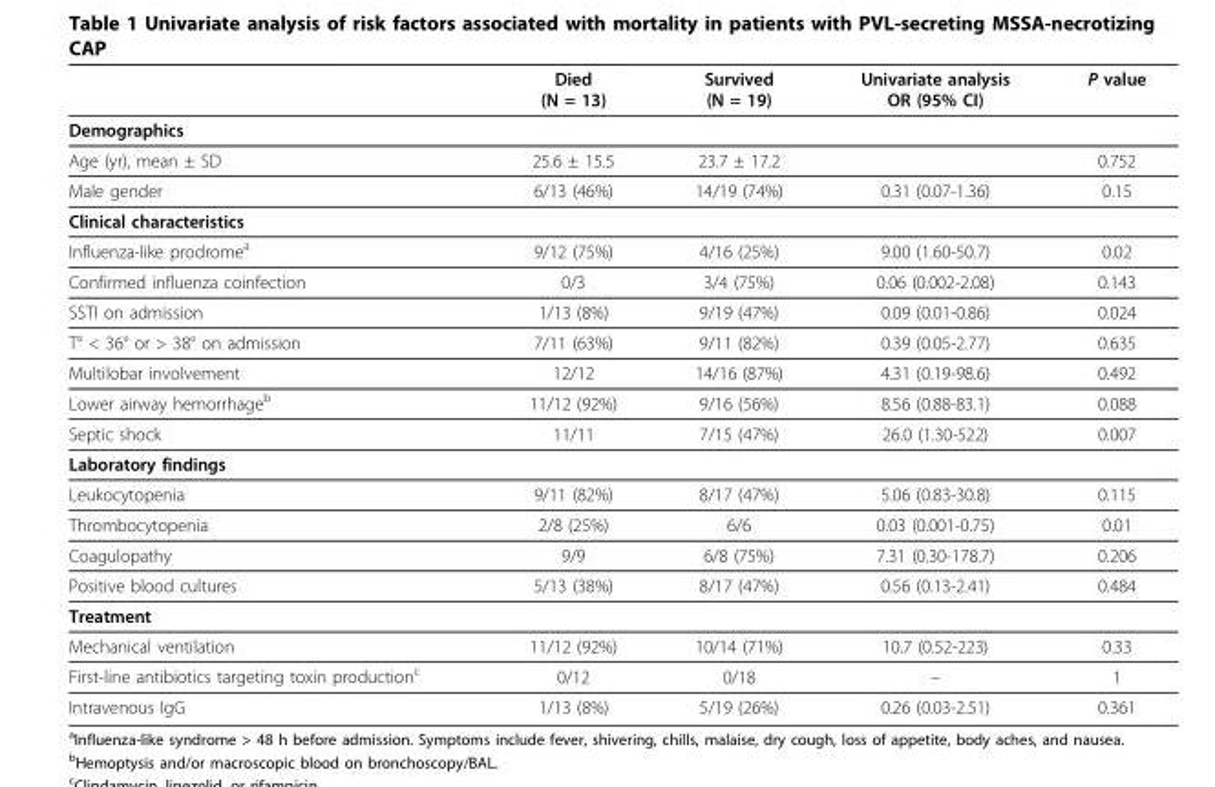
<table><thead><tr><td></td><td>Died (N = 13)</td><td>Survived (N = 19)</td><td>Univariate analysis OR (95% CI)</td><td>P value</td></tr></thead><tbody><tr><td colspan="5">Demographics</td></tr><tr><td>Age (yr), mean ± SD</td><td>25.6 ± 15.5</td><td>23.7 ± 17.2</td><td></td><td>0.752</td></tr><tr><td>Male gender</td><td>6/13 (46%)</td><td>14/19 (74%)</td><td>0.31 (0.07-1.36)</td><td>0.15</td></tr><tr><td colspan="5">Clinical characteristics</td></tr><tr><td>Influenza-like prodrome<sup>a</sup></td><td>9/12 (75%)</td><td>4/16 (25%)</td><td>9.00 (1.60-50.7)</td><td>0.02</td></tr><tr><td>Confirmed influenza coinfection</td><td>0/3</td><td>3/4 (75%)</td><td>0.06 (0.002-2.08)</td><td>0.143</td></tr><tr><td>SSTI on admission</td><td>1/13 (8%)</td><td>9/19 (47%)</td><td>0.09 (0.01-0.86)</td><td>0.024</td></tr><tr><td>T° &lt; 36° or &gt; 38° on admission</td><td>7/11 (63%)</td><td>9/11 (82%)</td><td>0.39 (0.05-2.77)</td><td>0.635</td></tr><tr><td>Multilobar involvement</td><td>12/12</td><td>14/16 (87%)</td><td>4.31 (0.19-98.6)</td><td>0.492</td></tr><tr><td>Lower airway hemorrhage<sup>b</sup></td><td>11/12 (92%)</td><td>9/16 (56%)</td><td>8.56 (0.88-83.1)</td><td>0.088</td></tr><tr><td>Septic shock</td><td>11/11</td><td>7/15 (47%)</td><td>26.0 (1.30-522)</td><td>0.007</td></tr><tr><td colspan="5">Laboratory findings</td></tr><tr><td>Leukocytopenia</td><td>9/11 (82%)</td><td>8/17 (47%)</td><td>5.06 (0.83-30.8)</td><td>0.115</td></tr><tr><td>Thrombocytopenia</td><td>2/8 (25%)</td><td>6/6</td><td>0.03 (0.001-0.75)</td><td>0.01</td></tr><tr><td>Coagulopathy</td><td>9/9</td><td>6/8 (75%)</td><td>7.31 (0.30-178.7)</td><td>0.206</td></tr><tr><td>Positive blood cultures</td><td>5/13 (38%)</td><td>8/17 (47%)</td><td>0.56 (0.13-2.41)</td><td>0.484</td></tr><tr><td colspan="5">Treatment</td></tr><tr><td>Mechanical ventilation</td><td>11/12 (92%)</td><td>10/14 (71%)</td><td>10.7 (0.52-223)</td><td>0.33</td></tr><tr><td>First-line antibiotics targeting toxin production<sup>c</sup></td><td>0/12</td><td>0/18</td><td>–</td><td>1</td></tr><tr><td>Intravenous IgG</td><td>1/13 (8%)</td><td>5/19 (26%)</td><td>0.26 (0.03-2.51)</td><td>0.361</td></tr></tbody></table>